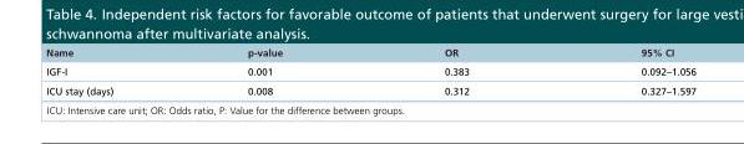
<table><thead><tr><td>Name</td><td>p-value</td><td>OR</td><td>95% CI</td></tr></thead><tbody><tr><td>IGF-I</td><td>0.001</td><td>0.383</td><td>0.092–1.056</td></tr><tr><td>ICU stay (days)</td><td>0.008</td><td>0.312</td><td>0.327–1.597</td></tr></tbody></table>